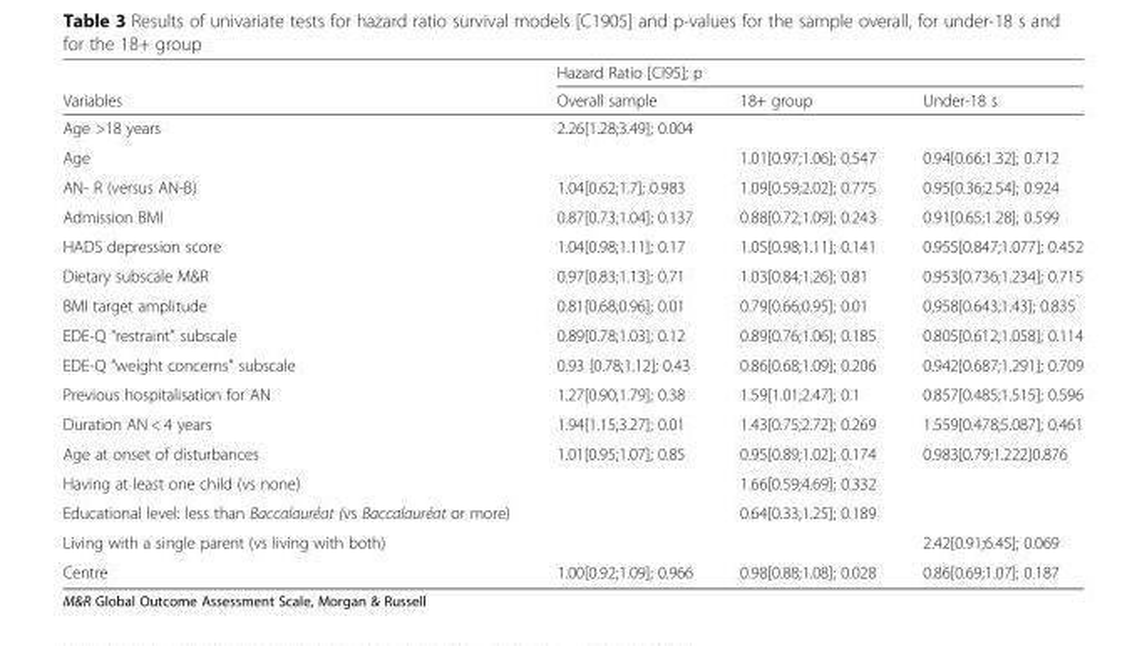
<table><thead><tr><td rowspan="2">Variables</td><td colspan="3">Hazard Ratio [CI95]; p</td></tr><tr><td>Overall sample</td><td>18+ group</td><td>Under-18 s</td></tr></thead><tbody><tr><td>Age &gt;18 years</td><td>2.26[1.28;3.49]; 0.004</td><td></td><td></td></tr><tr><td>Age</td><td></td><td>1.01[0.97;1.06]; 0.547</td><td>0.94[0.66;1.32]; 0.712</td></tr><tr><td>AN- R (versus AN-B)</td><td>1.04[0.62;1.7]; 0.983</td><td>1.09[0.59;2.02]; 0.775</td><td>0.95[0.36;2.54]; 0.924</td></tr><tr><td>Admission BMI</td><td>0.87[0.73;1.04]; 0.137</td><td>0.88[0.72;1.09]; 0.243</td><td>0.91[0.65;1.28]; 0.599</td></tr><tr><td>HADS depression score</td><td>1.04[0.98;1.11]; 0.17</td><td>1.05[0.98;1.11]; 0.141</td><td>0.955[0.847;1.077]; 0.452</td></tr><tr><td>Dietary subscale M&amp;R</td><td>0.97[0.83;1.13]; 0.71</td><td>1.03[0.84;1.26]; 0.81</td><td>0.953[0.736;1.234]; 0.715</td></tr><tr><td>BMI target amplitude</td><td>0.81[0.68;0.96]; 0.01</td><td>0.79[0.66;0.95]; 0.01</td><td>0,958[0.643;1.43]; 0.835</td></tr><tr><td>EDE-Q “restraint” subscale</td><td>0.89[0.78;1.03]; 0.12</td><td>0.89[0.76;1.06]; 0.185</td><td>0.805[0.612;1.058]; 0.114</td></tr><tr><td>EDE-Q “weight concerns” subscale</td><td>0.93 [0.78;1.12]; 0.43</td><td>0.86[0.68;1.09]; 0.206</td><td>0.942[0.687;1.291]; 0.709</td></tr><tr><td>Previous hospitalisation for AN</td><td>1.27[0.90;1.79]; 0.38</td><td>1.59[1.01;2.47]; 0.1</td><td>0.857[0.485;1.515]; 0.596</td></tr><tr><td>Duration AN &lt; 4 years</td><td>1.94[1.15;3.27]; 0.01</td><td>1.43[0.75;2.72]; 0.269</td><td>1.559[0.478;5.087]; 0.461</td></tr><tr><td>Age at onset of disturbances</td><td>1.01[0.95;1.07]; 0.85</td><td>0.95[0.89;1.02]; 0.174</td><td>0.983[0.79;1.222]0.876</td></tr><tr><td>Having at least one child (vs none)</td><td></td><td>1.66[0.59;4.69]; 0.332</td><td></td></tr><tr><td>Educational level: less than Baccalauréat (vs Baccalauréat or more)</td><td></td><td>0.64[0.33;1.25]; 0.189</td><td></td></tr><tr><td>Living with a single parent (vs living with both)</td><td></td><td></td><td>2.42[0.91;6.45]; 0.069</td></tr><tr><td>Centre</td><td>1.00[0.92;1.09]; 0.966</td><td>0.98[0.88;1.08]; 0.028</td><td>0.86[0.69;1.07]; 0.187</td></tr></tbody></table>